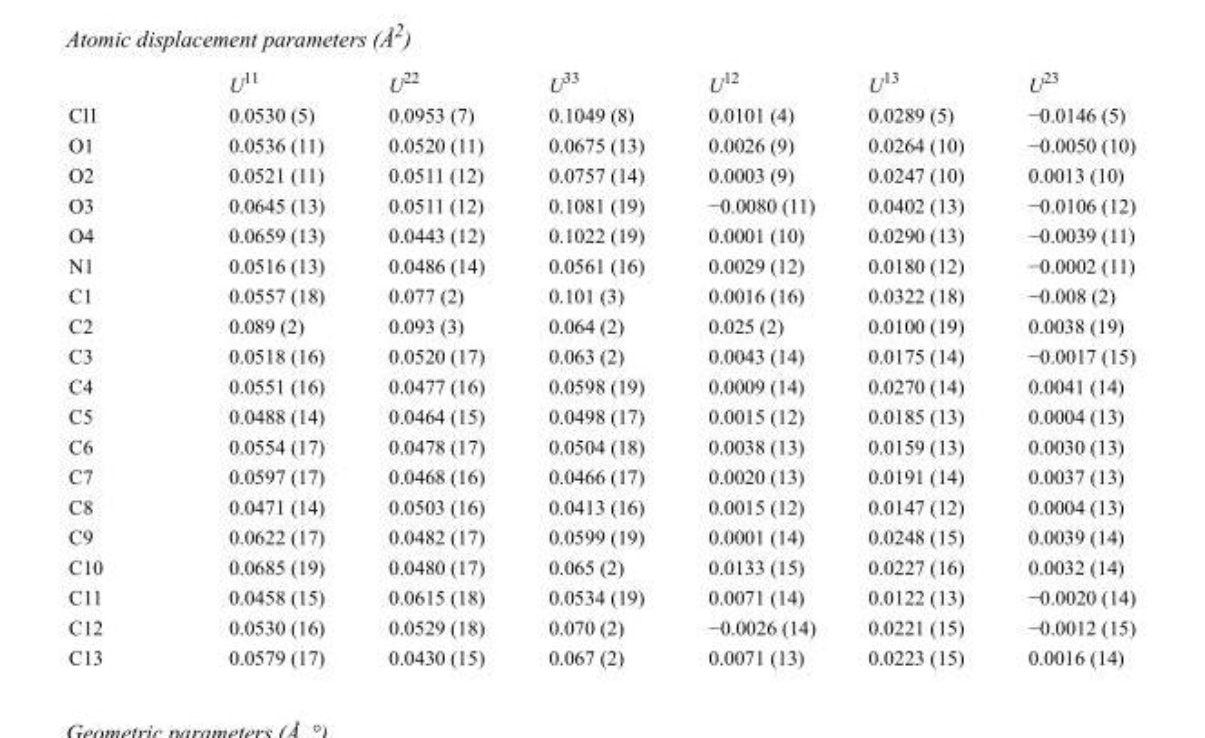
<table><thead><tr><td></td><td>U<sup>11</sup></td><td>U<sup>22</sup></td><td>U<sup>33</sup></td><td>U<sup>12</sup></td><td>U<sup>13</sup></td><td>U<sup>23</sup></td></tr></thead><tbody><tr><td>Cl1</td><td>0.0530 (5)</td><td>0.0953 (7)</td><td>0.1049 (8)</td><td>0.0101 (4)</td><td>0.0289 (5)</td><td>−0.0146 (5)</td></tr><tr><td>O1</td><td>0.0536 (11)</td><td>0.0520 (11)</td><td>0.0675 (13)</td><td>0.0026 (9)</td><td>0.0264 (10)</td><td>−0.0050 (10)</td></tr><tr><td>O2</td><td>0.0521 (11)</td><td>0.0511 (12)</td><td>0.0757 (14)</td><td>0.0003 (9)</td><td>0.0247 (10)</td><td>0.0013 (10)</td></tr><tr><td>O3</td><td>0.0645 (13)</td><td>0.0511 (12)</td><td>0.1081 (19)</td><td>−0.0080 (11)</td><td>0.0402 (13)</td><td>−0.0106 (12)</td></tr><tr><td>O4</td><td>0.0659 (13)</td><td>0.0443 (12)</td><td>0.1022 (19)</td><td>0.0001 (10)</td><td>0.0290 (13)</td><td>−0.0039 (11)</td></tr><tr><td>N1</td><td>0.0516 (13)</td><td>0.0486 (14)</td><td>0.0561 (16)</td><td>0.0029 (12)</td><td>0.0180 (12)</td><td>−0.0002 (11)</td></tr><tr><td>C1</td><td>0.0557 (18)</td><td>0.077 (2)</td><td>0.101 (3)</td><td>0.0016 (16)</td><td>0.0322 (18)</td><td>−0.008 (2)</td></tr><tr><td>C2</td><td>0.089 (2)</td><td>0.093 (3)</td><td>0.064 (2)</td><td>0.025 (2)</td><td>0.0100 (19)</td><td>0.0038 (19)</td></tr><tr><td>C3</td><td>0.0518 (16)</td><td>0.0520 (17)</td><td>0.063 (2)</td><td>0.0043 (14)</td><td>0.0175 (14)</td><td>−0.0017 (15)</td></tr><tr><td>C4</td><td>0.0551 (16)</td><td>0.0477 (16)</td><td>0.0598 (19)</td><td>0.0009 (14)</td><td>0.0270 (14)</td><td>0.0041 (14)</td></tr><tr><td>C5</td><td>0.0488 (14)</td><td>0.0464 (15)</td><td>0.0498 (17)</td><td>0.0015 (12)</td><td>0.0185 (13)</td><td>0.0004 (13)</td></tr><tr><td>C6</td><td>0.0554 (17)</td><td>0.0478 (17)</td><td>0.0504 (18)</td><td>0.0038 (13)</td><td>0.0159 (13)</td><td>0.0030 (13)</td></tr><tr><td>C7</td><td>0.0597 (17)</td><td>0.0468 (16)</td><td>0.0466 (17)</td><td>0.0020 (13)</td><td>0.0191 (14)</td><td>0.0037 (13)</td></tr><tr><td>C8</td><td>0.0471 (14)</td><td>0.0503 (16)</td><td>0.0413 (16)</td><td>0.0015 (12)</td><td>0.0147 (12)</td><td>0.0004 (13)</td></tr><tr><td>C9</td><td>0.0622 (17)</td><td>0.0482 (17)</td><td>0.0599 (19)</td><td>0.0001 (14)</td><td>0.0248 (15)</td><td>0.0039 (14)</td></tr><tr><td>C10</td><td>0.0685 (19)</td><td>0.0480 (17)</td><td>0.065 (2)</td><td>0.0133 (15)</td><td>0.0227 (16)</td><td>0.0032 (14)</td></tr><tr><td>C11</td><td>0.0458 (15)</td><td>0.0615 (18)</td><td>0.0534 (19)</td><td>0.0071 (14)</td><td>0.0122 (13)</td><td>−0.0020 (14)</td></tr><tr><td>C12</td><td>0.0530 (16)</td><td>0.0529 (18)</td><td>0.070 (2)</td><td>−0.0026 (14)</td><td>0.0221 (15)</td><td>−0.0012 (15)</td></tr><tr><td>C13</td><td>0.0579 (17)</td><td>0.0430 (15)</td><td>0.067 (2)</td><td>0.0071 (13)</td><td>0.0223 (15)</td><td>0.0016 (14)</td></tr></tbody></table>